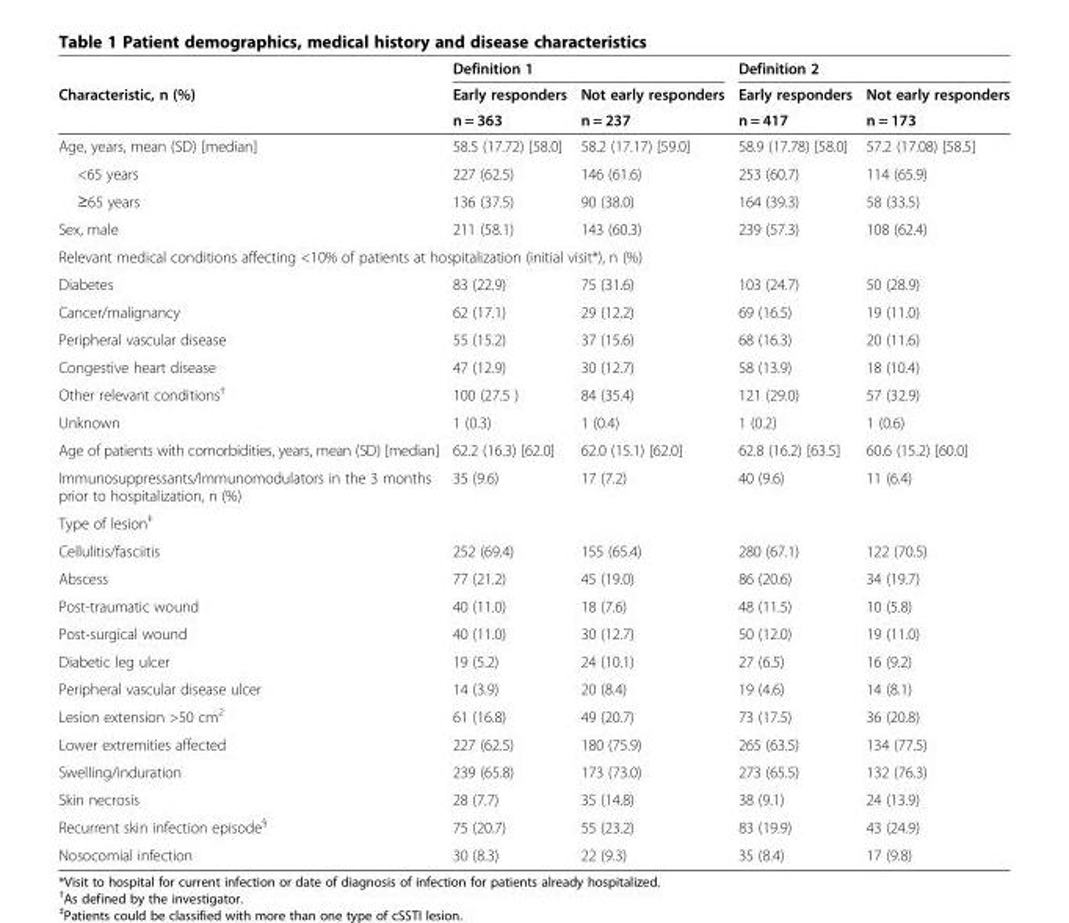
<table><thead><tr><td rowspan="3">Characteristic, n (%)</td><td colspan="2">Definition 1</td><td colspan="2">Definition 2</td></tr><tr><td rowspan="2">Early responders n = 363</td><td rowspan="2">Not early responders n = 237</td><td rowspan="2">Early responders n = 417</td><td rowspan="2">Not early responders n = 173</td></tr><tr></tr></thead><tbody><tr><td>Age, years, mean (SD) [median]</td><td>58.5 (17.72) [58.0]</td><td>58.2 (17.17) [59.0]</td><td>58.9 (17.78) [58.0]</td><td>57.2 (17.08) [58.5]</td></tr><tr><td>&lt;65 years</td><td>227 (62.5)</td><td>146 (61.6)</td><td>253 (60.7)</td><td>114 (65.9)</td></tr><tr><td>≥65 years</td><td>136 (37.5)</td><td>90 (38.0)</td><td>164 (39.3)</td><td>58 (33.5)</td></tr><tr><td>Sex, male</td><td>211 (58.1)</td><td>143 (60.3)</td><td>239 (57.3)</td><td>108 (62.4)</td></tr><tr><td colspan="5">Relevant medical conditions affecting &lt;10% of patients at hospitalization (initial visit*), n (%)</td></tr><tr><td>Diabetes</td><td>83 (22.9)</td><td>75 (31.6)</td><td>103 (24.7)</td><td>50 (28.9)</td></tr><tr><td>Cancer/malignancy</td><td>62 (17.1)</td><td>29 (12.2)</td><td>69 (16.5)</td><td>19 (11.0)</td></tr><tr><td>Peripheral vascular disease</td><td>55 (15.2)</td><td>37 (15.6)</td><td>68 (16.3)</td><td>20 (11.6)</td></tr><tr><td>Congestive heart disease</td><td>47 (12.9)</td><td>30 (12.7)</td><td>58 (13.9)</td><td>18 (10.4)</td></tr><tr><td>Other relevant conditions<sup>†</sup></td><td>100 (27.5 )</td><td>84 (35.4)</td><td>121 (29.0)</td><td>57 (32.9)</td></tr><tr><td>Unknown</td><td>1 (0.3)</td><td>1 (0.4)</td><td>1 (0.2)</td><td>1 (0.6)</td></tr><tr><td>Age of patients with comorbidities, years, mean (SD) [median]</td><td>62.2 (16.3) [62.0]</td><td>62.0 (15.1) [62.0]</td><td>62.8 (16.2) [63.5]</td><td>60.6 (15.2) [60.0]</td></tr><tr><td>Immunosuppressants/Immunomodulators in the 3 months prior to hospitalization, n (%)</td><td>35 (9.6)</td><td>17 (7.2)</td><td>40 (9.6)</td><td>11 (6.4)</td></tr><tr><td colspan="5">Type of lesion<sup>‡</sup></td></tr><tr><td>Cellulitis/fasciitis</td><td>252 (69.4)</td><td>155 (65.4)</td><td>280 (67.1)</td><td>122 (70.5)</td></tr><tr><td>Abscess</td><td>77 (21.2)</td><td>45 (19.0)</td><td>86 (20.6)</td><td>34 (19.7)</td></tr><tr><td>Post-traumatic wound</td><td>40 (11.0)</td><td>18 (7.6)</td><td>48 (11.5)</td><td>10 (5.8)</td></tr><tr><td>Post-surgical wound</td><td>40 (11.0)</td><td>30 (12.7)</td><td>50 (12.0)</td><td>19 (11.0)</td></tr><tr><td>Diabetic leg ulcer</td><td>19 (5.2)</td><td>24 (10.1)</td><td>27 (6.5)</td><td>16 (9.2)</td></tr><tr><td>Peripheral vascular disease ulcer</td><td>14 (3.9)</td><td>20 (8.4)</td><td>19 (4.6)</td><td>14 (8.1)</td></tr><tr><td>Lesion extension &gt;50 cm<sup>2</sup></td><td>61 (16.8)</td><td>49 (20.7)</td><td>73 (17.5)</td><td>36 (20.8)</td></tr><tr><td>Lower extremities affected</td><td>227 (62.5)</td><td>180 (75.9)</td><td>265 (63.5)</td><td>134 (77.5)</td></tr><tr><td>Swelling/induration</td><td>239 (65.8)</td><td>173 (73.0)</td><td>273 (65.5)</td><td>132 (76.3)</td></tr><tr><td>Skin necrosis</td><td>28 (7.7)</td><td>35 (14.8)</td><td>38 (9.1)</td><td>24 (13.9)</td></tr><tr><td>Recurrent skin infection episode<sup>§</sup></td><td>75 (20.7)</td><td>55 (23.2)</td><td>83 (19.9)</td><td>43 (24.9)</td></tr><tr><td>Nosocomial infection</td><td>30 (8.3)</td><td>22 (9.3)</td><td>35 (8.4)</td><td>17 (9.8)</td></tr></tbody></table>